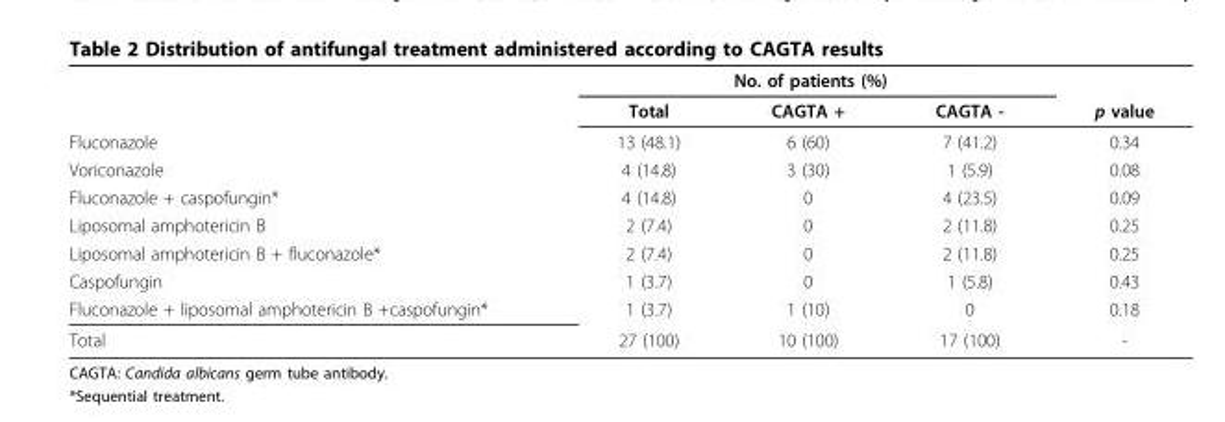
<table><thead><tr><td rowspan="2"></td><td colspan="3">No. of patients (%)</td><td rowspan="2">p value</td></tr><tr><td>Total</td><td>CAGTA +</td><td>CAGTA -</td></tr></thead><tbody><tr><td>Fluconazole</td><td>13 (48.1)</td><td>6 (60)</td><td>7 (41.2)</td><td>0.34</td></tr><tr><td>Voriconazole</td><td>4 (14.8)</td><td>3 (30)</td><td>1 (5.9)</td><td>0.08</td></tr><tr><td>Fluconazole + caspofungin*</td><td>4 (14.8)</td><td>0</td><td>4 (23.5)</td><td>0.09</td></tr><tr><td>Liposomal amphotericin B</td><td>2 (7.4)</td><td>0</td><td>2 (11.8)</td><td>0.25</td></tr><tr><td>Liposomal amphotericin B + fluconazole*</td><td>2 (7.4)</td><td>0</td><td>2 (11.8)</td><td>0.25</td></tr><tr><td>Caspofungin</td><td>1 (3.7)</td><td>0</td><td>1 (5.8)</td><td>0.43</td></tr><tr><td>Fluconazole + liposomal amphotericin B +caspofungin*</td><td>1 (3.7)</td><td>1 (10)</td><td>0</td><td>0.18</td></tr><tr><td>Total</td><td>27 (100)</td><td>10 (100)</td><td>17 (100)</td><td>-</td></tr></tbody></table>